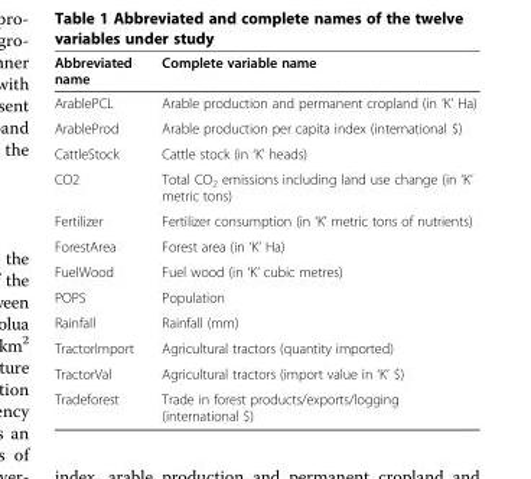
<table><thead><tr><td>Abbreviated name</td><td>Complete variable name</td></tr></thead><tbody><tr><td>ArablePCL</td><td>Arable production and permanent cropland (in ‘K’ Ha)</td></tr><tr><td>ArableProd</td><td>Arable production per capita index (international $)</td></tr><tr><td>CattleStock</td><td>Cattle stock (in ‘K’ heads)</td></tr><tr><td>CO2</td><td>Total CO<sub>2</sub> emissions including land use change (in ‘K’ metric tons)</td></tr><tr><td>Fertilizer</td><td>Fertilizer consumption (in ‘K’ metric tons of nutrients)</td></tr><tr><td>ForestArea</td><td>Forest area (in ‘K’ Ha)</td></tr><tr><td>FuelWood</td><td>Fuel wood (in ‘K’ cubic metres)</td></tr><tr><td>POPS</td><td>Population</td></tr><tr><td>Rainfall</td><td>Rainfall (mm)</td></tr><tr><td>TractorImport</td><td>Agricultural tractors (quantity imported)</td></tr><tr><td>TractorVal</td><td>Agricultural tractors (import value in ‘K’ $)</td></tr><tr><td>Tradeforest</td><td>Trade in forest products/exports/logging (international $)</td></tr></tbody></table>